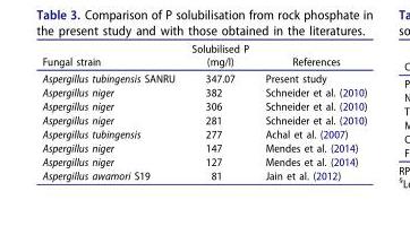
<table><thead><tr><td>Fungal strain</td><td>Solubilised P (mg/l)</td><td>References</td></tr></thead><tbody><tr><td>Aspergillus tubingensis SANRU</td><td>347.07</td><td>Present study</td></tr><tr><td>Aspergillus niger</td><td>382</td><td>Schneider et al. (2010)</td></tr><tr><td>Aspergillus niger</td><td>306</td><td>Schneider et al. (2010)</td></tr><tr><td>Aspergillus niger</td><td>281</td><td>Schneider et al. (2010)</td></tr><tr><td>Aspergillus tubingensis</td><td>277</td><td>Achal et al. (2007)</td></tr><tr><td>Aspergillus niger</td><td>147</td><td>Mendes et al. (2014)</td></tr><tr><td>Aspergillus niger</td><td>127</td><td>Mendes et al. (2014)</td></tr><tr><td>Aspergillus awamori S19</td><td>81</td><td>Jain et al. (2012)</td></tr></tbody></table>